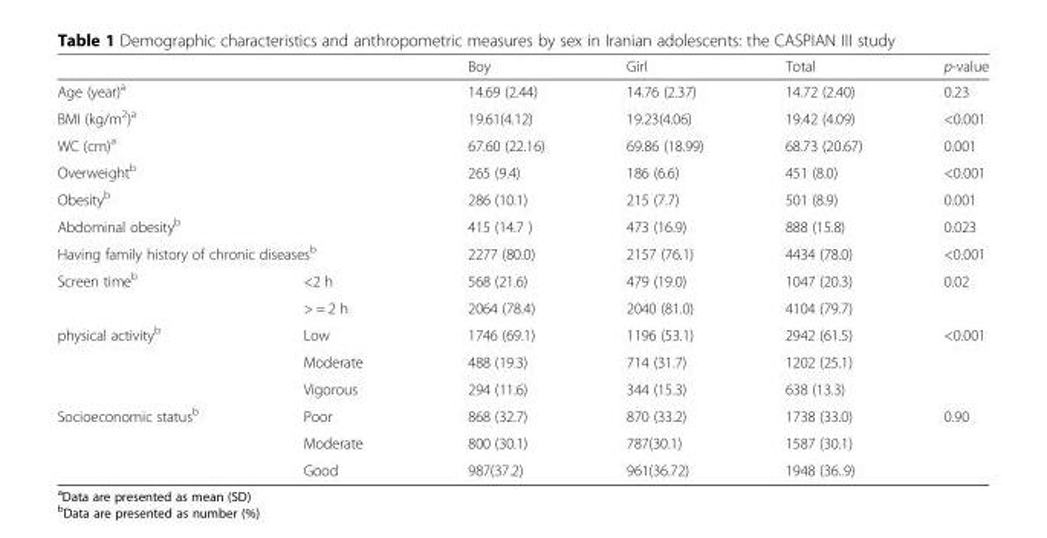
<table><thead><tr><td></td><td></td><td>Boy</td><td>Girl</td><td>Total</td><td>p-value</td></tr></thead><tbody><tr><td colspan="2">Age (year)<sup>a</sup></td><td>14.69 (2.44)</td><td>14.76 (2.37)</td><td>14.72 (2.40)</td><td>0.23</td></tr><tr><td colspan="2">BMI (kg/m<sup>2</sup>)<sup>a</sup></td><td>19.61(4.12)</td><td>19.23(4.06)</td><td>19.42 (4.09)</td><td>&lt;0.001</td></tr><tr><td colspan="2">WC (cm)<sup>a</sup></td><td>67.60 (22.16)</td><td>69.86 (18.99)</td><td>68.73 (20.67)</td><td>0.001</td></tr><tr><td colspan="2">Overweight<sup>b</sup></td><td>265 (9.4)</td><td>186 (6.6)</td><td>451 (8.0)</td><td>&lt;0.001</td></tr><tr><td colspan="2">Obesity<sup>b</sup></td><td>286 (10.1)</td><td>215 (7.7)</td><td>501 (8.9)</td><td>0.001</td></tr><tr><td colspan="2">Abdominal obesity<sup>b</sup></td><td>415 (14.7 )</td><td>473 (16.9)</td><td>888 (15.8)</td><td>0.023</td></tr><tr><td colspan="2">Having family history of chronic diseases<sup>b</sup></td><td>2277 (80.0)</td><td>2157 (76.1)</td><td>4434 (78.0)</td><td>&lt;0.001</td></tr><tr><td rowspan="2">Screen time<sup>b</sup></td><td>&lt;2 h</td><td>568 (21.6)</td><td>479 (19.0)</td><td>1047 (20.3)</td><td rowspan="2">0.02</td></tr><tr><td>&gt; = 2 h</td><td>2064 (78.4)</td><td>2040 (81.0)</td><td>4104 (79.7)</td></tr><tr><td rowspan="3">physical activity<sup>b</sup></td><td>Low</td><td>1746 (69.1)</td><td>1196 (53.1)</td><td>2942 (61.5)</td><td rowspan="3">&lt;0.001</td></tr><tr><td>Moderate</td><td>488 (19.3)</td><td>714 (31.7)</td><td>1202 (25.1)</td></tr><tr><td>Vigorous</td><td>294 (11.6)</td><td>344 (15.3)</td><td>638 (13.3)</td></tr><tr><td rowspan="3">Socioeconomic status<sup>b</sup></td><td>Poor</td><td>868 (32.7)</td><td>870 (33.2)</td><td>1738 (33.0)</td><td rowspan="3">0.90</td></tr><tr><td>Moderate</td><td>800 (30.1)</td><td>787(30.1)</td><td>1587 (30.1)</td></tr><tr><td>Good</td><td>987(37.2)</td><td>961(36.72)</td><td>1948 (36..9)</td></tr></tbody></table>